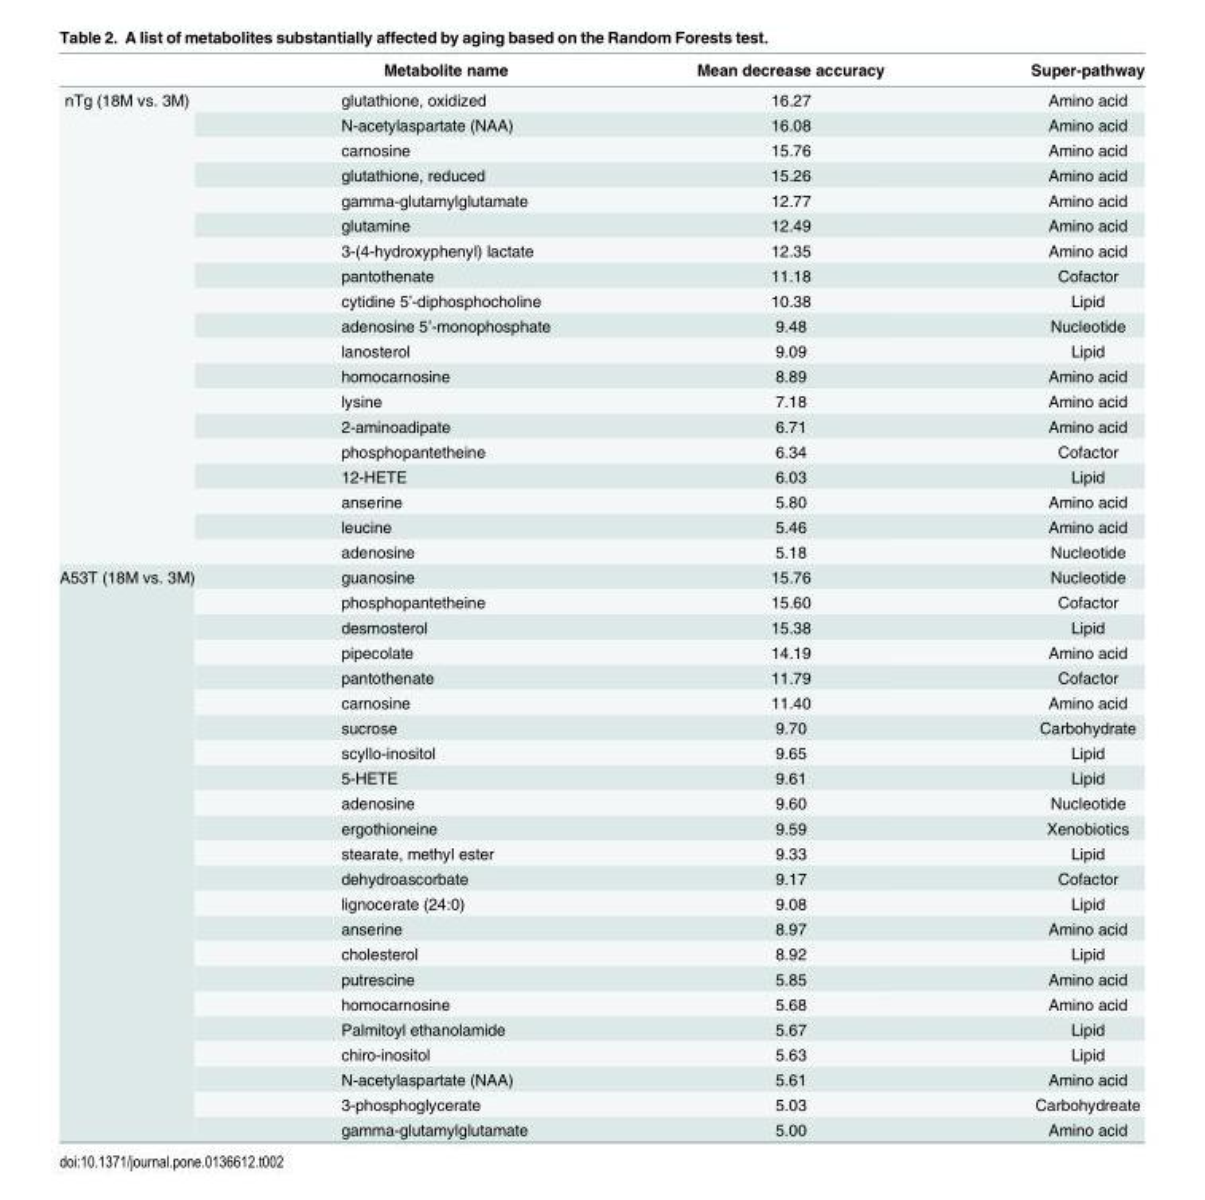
<table><thead><tr><td></td><td>Metabolite name</td><td>Mean decrease accuracy</td><td>Super-pathway</td></tr></thead><tbody><tr><td rowspan="19">nTg (18M vs. 3M)</td><td>glutathione, oxidized</td><td>16.27</td><td>Amino acid</td></tr><tr><td>N-acetylaspartate (NAA)</td><td>16.08</td><td>Amino acid</td></tr><tr><td>carnosine</td><td>15.76</td><td>Amino acid</td></tr><tr><td>glutathione, reduced</td><td>15.26</td><td>Amino acid</td></tr><tr><td>gamma-glutamylglutamate</td><td>12.77</td><td>Amino acid</td></tr><tr><td>glutamine</td><td>12.49</td><td>Amino acid</td></tr><tr><td>3-(4-hydroxyphenyl) lactate</td><td>12.35</td><td>Amino acid</td></tr><tr><td>pantothenate</td><td>11.18</td><td>Cofactor</td></tr><tr><td>cytidine 5’-diphosphocholine</td><td>10.38</td><td>Lipid</td></tr><tr><td>adenosine 5’-monophosphate</td><td>9.48</td><td>Nucleotide</td></tr><tr><td>lanosterol</td><td>9.09</td><td>Lipid</td></tr><tr><td>homocarnosine</td><td>8.89</td><td>Amino acid</td></tr><tr><td>lysine</td><td>7.18</td><td>Amino acid</td></tr><tr><td>2-aminoadipate</td><td>6.71</td><td>Amino acid</td></tr><tr><td>phosphopantetheine</td><td>6.34</td><td>Cofactor</td></tr><tr><td>12-HETE</td><td>6.03</td><td>Lipid</td></tr><tr><td>anserine</td><td>5.80</td><td>Amino acid</td></tr><tr><td>leucine</td><td>5.46</td><td>Amino acid</td></tr><tr><td>adenosine</td><td>5.18</td><td>Nucleotide</td></tr><tr><td rowspan="23">A53T (18M vs. 3M)</td><td>guanosine</td><td>15.76</td><td>Nucleotide</td></tr><tr><td>phosphopantetheine</td><td>15.60</td><td>Cofactor</td></tr><tr><td>desmosterol</td><td>15.38</td><td>Lipid</td></tr><tr><td>pipecolate</td><td>14.19</td><td>Amino acid</td></tr><tr><td>pantothenate</td><td>11.79</td><td>Cofactor</td></tr><tr><td>carnosine</td><td>11.40</td><td>Amino acid</td></tr><tr><td>sucrose</td><td>9.70</td><td>Carbohydrate</td></tr><tr><td>scyllo-inositol</td><td>9.65</td><td>Lipid</td></tr><tr><td>5-HETE</td><td>9.61</td><td>Lipid</td></tr><tr><td>adenosine</td><td>9.60</td><td>Nucleotide</td></tr><tr><td>ergothioneine</td><td>9.59</td><td>Xenobiotics</td></tr><tr><td>stearate, methyl ester</td><td>9.33</td><td>Lipid</td></tr><tr><td>dehydroascorbate</td><td>9.17</td><td>Cofactor</td></tr><tr><td>lignocerate (24:0)</td><td>9.08</td><td>Lipid</td></tr><tr><td>anserine</td><td>8.97</td><td>Amino acid</td></tr><tr><td>cholesterol</td><td>8.92</td><td>Lipid</td></tr><tr><td>putrescine</td><td>5.85</td><td>Amino acid</td></tr><tr><td>homocarnosine</td><td>5.68</td><td>Amino acid</td></tr><tr><td>Palmitoyl ethanolamide</td><td>5.67</td><td>Lipid</td></tr><tr><td>chiro-inositol</td><td>5.63</td><td>Lipid</td></tr><tr><td>N-acetylaspartate (NAA)</td><td>5.61</td><td>Amino acid</td></tr><tr><td>3-phosphoglycerate</td><td>5.03</td><td>Carbohydreate</td></tr><tr><td>gamma-glutamylglutamate</td><td>5.00</td><td>Amino acid</td></tr></tbody></table>